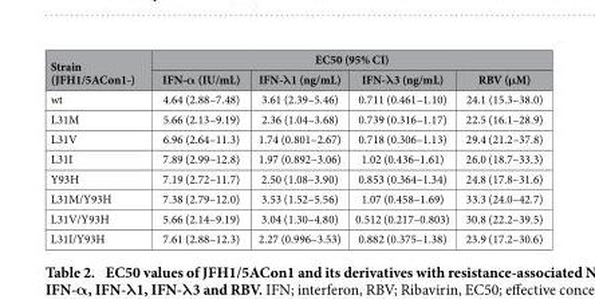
<table><thead><tr><td rowspan="2">Strain (JFH1/5ACon1-)</td><td colspan="4">EC50 (95% CI)</td></tr><tr><td>IFN-α (IU/mL)</td><td>IFN-λ1 (ng/mL)</td><td>IFN-λ3 (ng/mL)</td><td>RBV (μM)</td></tr></thead><tbody><tr><td>wt</td><td>4.64 (2.88–7.48)</td><td>3.61 (2.39–5.46)</td><td>0.711 (0.461–1.10)</td><td>24.1 (15.3–38.0)</td></tr><tr><td>L31M</td><td>5.66 (2.13–9.19)</td><td>2.36 (1.04–3.68)</td><td>0.739 (0.316–1.17)</td><td>22.5 (16.1–28.9)</td></tr><tr><td>L31V</td><td>6.96 (2.64–11.3)</td><td>1.74 (0.801–2.67)</td><td>0.718 (0.306–1.13)</td><td>29.4 (21.2–37.8)</td></tr><tr><td>L31I</td><td>7.89 (2.99–12.8)</td><td>1.97 (0.892–3.06)</td><td>1.02 (0.436–1.61)</td><td>26.0 (18.7–33.3)</td></tr><tr><td>Y93H</td><td>7.19 (2.72–11.7)</td><td>2.50 (1.08–3.90)</td><td>0.853 (0.364–1.34)</td><td>24.8 (17.8–31.6)</td></tr><tr><td>L31M/Y93H</td><td>7.38 (2.79–12.0)</td><td>3.53 (1.52–5.56)</td><td>1.07 (0.458–1.69)</td><td>33.3 (24.0–42.7)</td></tr><tr><td>L31V/Y93H</td><td>5.66 (2.14–9.19)</td><td>3.04 (1.30–4.80)</td><td>0.512 (0.217–0.803)</td><td>30.8 (22.2–39.5)</td></tr><tr><td>L31I/Y93H</td><td>7.61 (2.88–12.3)</td><td>2.27 (0.996–3.53)</td><td>0.882 (0.375–1.38)</td><td>23.9 (17.2–30.6)</td></tr></tbody></table>